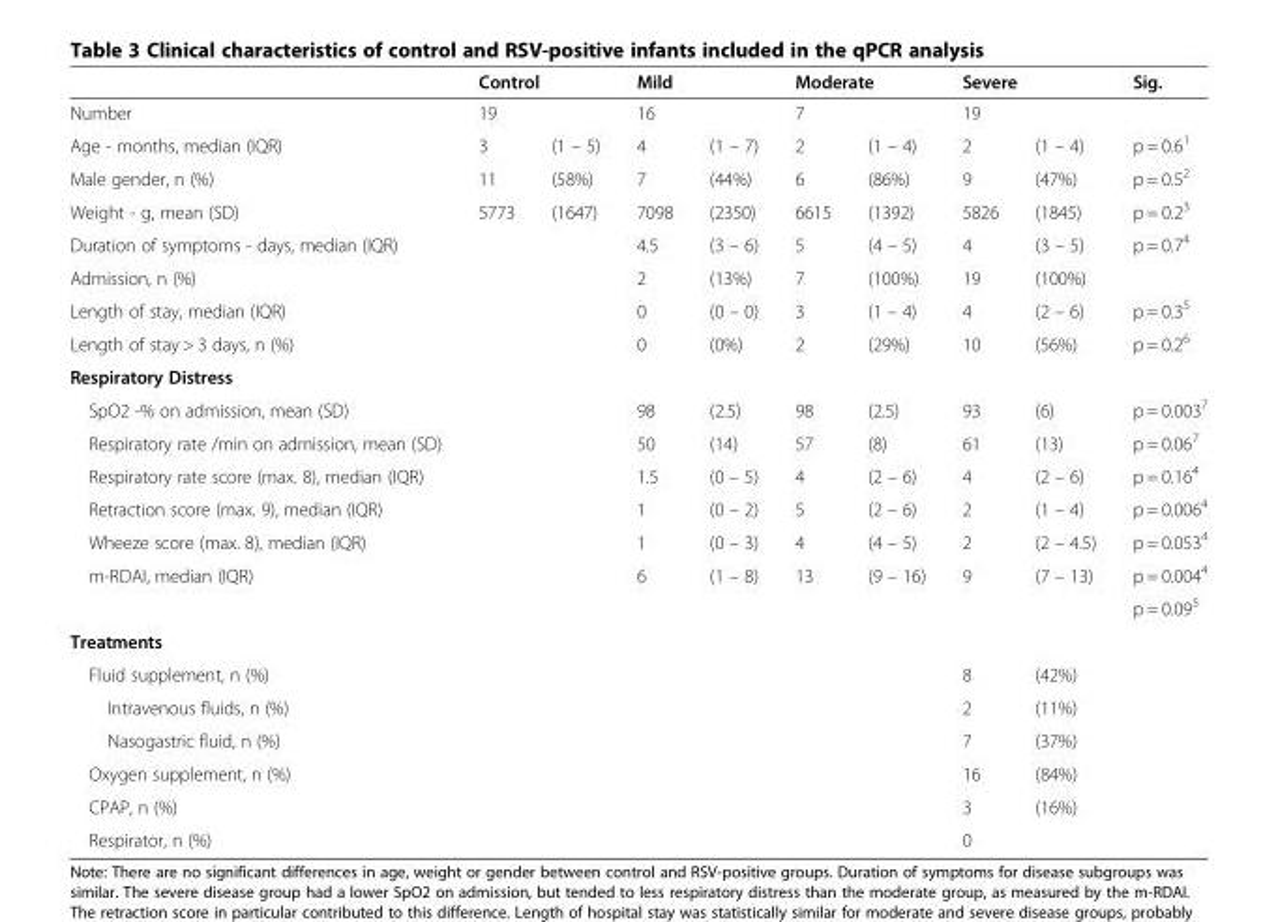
<table><thead><tr><td rowspan="2">Number</td><td colspan="2">Control</td><td colspan="2">Mild</td><td colspan="2">Moderate</td><td colspan="2">Severe</td><td rowspan="2">Sig.</td></tr><tr><td>19</td><td></td><td>16</td><td></td><td>7</td><td></td><td>19</td><td></td></tr></thead><tbody><tr><td>Age - months, median (IQR)</td><td>3</td><td>(1 – 5)</td><td>4</td><td>(1 – 7)</td><td>2</td><td>(1 – 4)</td><td>2</td><td>(1 – 4)</td><td>p = 0.6<sup>1</sup></td></tr><tr><td>Male gender, n (%)</td><td>11</td><td>(58%)</td><td>7</td><td>(44%)</td><td>6</td><td>(86%)</td><td>9</td><td>(47%)</td><td>p = 0.5<sup>2</sup></td></tr><tr><td>Weight - g, mean (SD)</td><td>5773</td><td>(1647)</td><td>7098</td><td>(2350)</td><td>6615</td><td>(1392)</td><td>5826</td><td>(1845)</td><td>p = 0.2<sup>3</sup></td></tr><tr><td>Duration of symptoms - days, median (IQR)</td><td></td><td></td><td>4.5</td><td>(3 – 6)</td><td>5</td><td>(4 – 5)</td><td>4</td><td>(3 – 5)</td><td>p = 0.7<sup>4</sup></td></tr><tr><td>Admission, n (%)</td><td></td><td></td><td>2</td><td>(13%)</td><td>7</td><td>(100%)</td><td>19</td><td>(100%)</td><td></td></tr><tr><td>Length of stay, median (IQR)</td><td></td><td></td><td>0</td><td>(0 – 0)</td><td>3</td><td>(1 – 4)</td><td>4</td><td>(2 – 6)</td><td>p = 0.3<sup>5</sup></td></tr><tr><td>Length of stay &gt; 3 days, n (%)</td><td></td><td></td><td>0</td><td>(0%)</td><td>2</td><td>(29%)</td><td>10</td><td>(56%)</td><td>p = 0.2<sup>6</sup></td></tr><tr><td colspan="10">Respiratory Distress</td></tr><tr><td>SpO2 -% on admission, mean (SD)</td><td></td><td></td><td>98</td><td>(2.5)</td><td>98</td><td>(2.5)</td><td>93</td><td>(6)</td><td>p = 0.003<sup>7</sup></td></tr><tr><td>Respiratory rate /min on admission, mean (SD)</td><td></td><td></td><td>50</td><td>(14)</td><td>57</td><td>(8)</td><td>61</td><td>(13)</td><td>p = 0.06<sup>7</sup></td></tr><tr><td>Respiratory rate score (max. 8), median (IQR)</td><td></td><td></td><td>1.5</td><td>(0 – 5)</td><td>4</td><td>(2 – 6)</td><td>4</td><td>(2 – 6)</td><td>p = 0.16<sup>4</sup></td></tr><tr><td>Retraction score (max. 9), median (IQR)</td><td></td><td></td><td>1</td><td>(0 – 2)</td><td>5</td><td>(2 – 6)</td><td>2</td><td>(1 – 4)</td><td>p = 0.006<sup>4</sup></td></tr><tr><td>Wheeze score (max. 8), median (IQR)</td><td></td><td></td><td>1</td><td>(0 – 3)</td><td>4</td><td>(4 – 5)</td><td>2</td><td>(2 – 4.5)</td><td>p = 0.053<sup>4</sup></td></tr><tr><td rowspan="2">m-RDAI, median (IQR)</td><td></td><td></td><td>6</td><td>(1 – 8)</td><td>13</td><td>(9 – 16)</td><td>9</td><td>(7 – 13)</td><td>p = 0.004<sup>4</sup></td></tr><tr><td></td><td></td><td></td><td></td><td></td><td></td><td></td><td></td><td>p = 0.09<sup>5</sup></td></tr><tr><td colspan="10">Treatments</td></tr><tr><td>Fluid supplement, n (%)</td><td></td><td></td><td></td><td></td><td></td><td></td><td>8</td><td>(42%)</td><td></td></tr><tr><td>Intravenous fluids, n (%)</td><td></td><td></td><td></td><td></td><td></td><td></td><td>2</td><td>(11%)</td><td></td></tr><tr><td>Nasogastric fluid, n (%)</td><td></td><td></td><td></td><td></td><td></td><td></td><td>7</td><td>(37%)</td><td></td></tr><tr><td>Oxygen supplement, n (%)</td><td></td><td></td><td></td><td></td><td></td><td></td><td>16</td><td>(84%)</td><td></td></tr><tr><td>CPAP, n (%)</td><td></td><td></td><td></td><td></td><td></td><td></td><td>3</td><td>(16%)</td><td></td></tr><tr><td>Respirator, n (%)</td><td></td><td></td><td></td><td></td><td></td><td></td><td>0</td><td></td><td></td></tr></tbody></table>